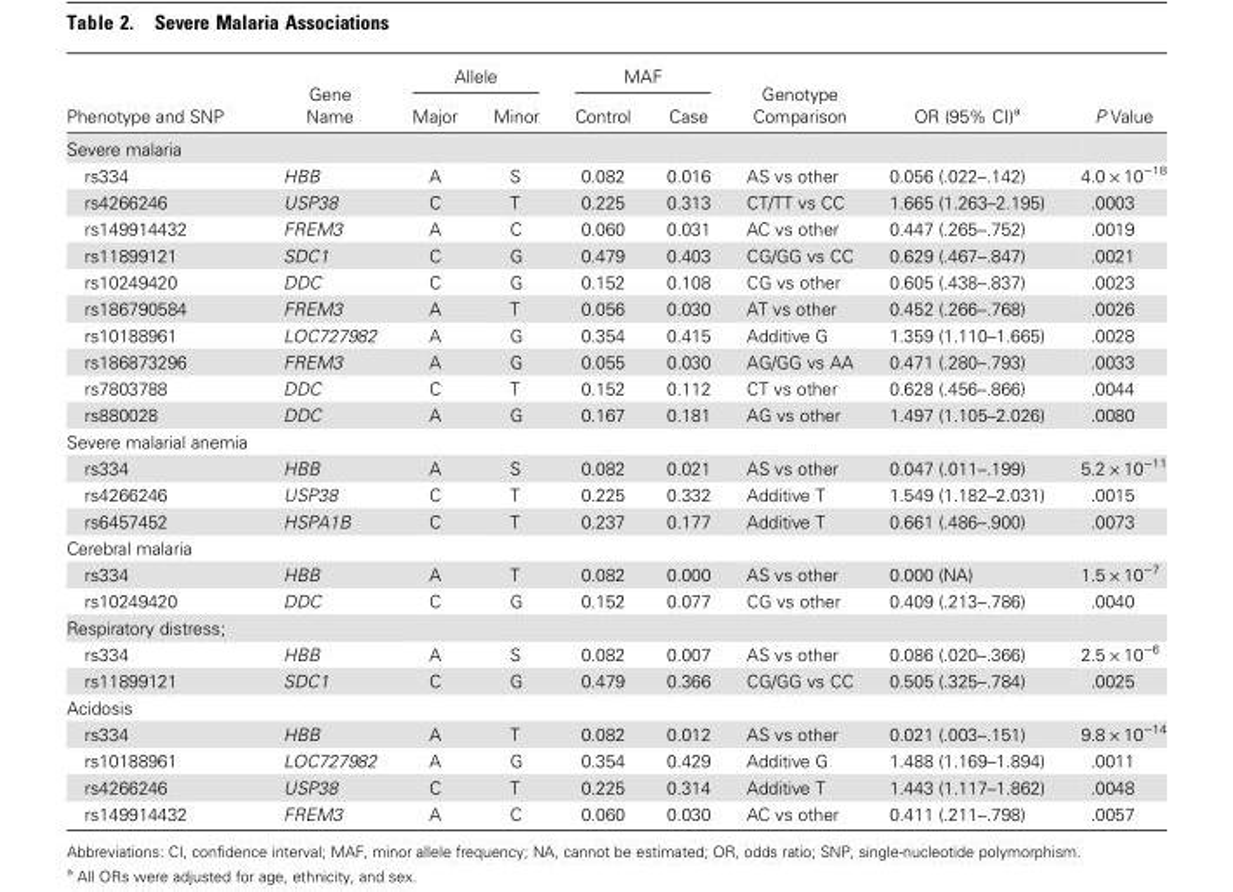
<table><thead><tr><td rowspan="2">Phenotype and SNP</td><td rowspan="2">Gene Name</td><td colspan="2">Allele</td><td colspan="2">MAF</td><td rowspan="2">Genotype Comparison</td><td rowspan="2">OR (95% CI)<sup>a</sup></td><td rowspan="2">P Value</td></tr><tr><td>Major</td><td>Minor</td><td>Control</td><td>Case</td></tr></thead><tbody><tr><td colspan="9">Severe malaria</td></tr><tr><td>rs334</td><td>HBB</td><td>A</td><td>S</td><td>0.082</td><td>0.016</td><td>AS vs other</td><td>0.056 (.022–.142)</td><td>4.0 × 10<sup>−18</sup></td></tr><tr><td>rs4266246</td><td>USP38</td><td>C</td><td>T</td><td>0.225</td><td>0.313</td><td>CT/TT vs CC</td><td>1.665 (1.263–2.195)</td><td>.0003</td></tr><tr><td>rs149914432</td><td>FREM3</td><td>A</td><td>C</td><td>0.060</td><td>0.031</td><td>AC vs other</td><td>0.447 (.265–.752)</td><td>.0019</td></tr><tr><td>rs11899121</td><td>SDC1</td><td>C</td><td>G</td><td>0.479</td><td>0.403</td><td>CG/GG vs CC</td><td>0.629 (.467–.847)</td><td>.0021</td></tr><tr><td>rs10249420</td><td>DDC</td><td>C</td><td>G</td><td>0.152</td><td>0.108</td><td>CG vs other</td><td>0.605 (.438–.837)</td><td>.0023</td></tr><tr><td>rs186790584</td><td>FREM3</td><td>A</td><td>T</td><td>0.056</td><td>0.030</td><td>AT vs other</td><td>0.452 (.266–.768)</td><td>.0026</td></tr><tr><td>rs10188961</td><td>LOC727982</td><td>A</td><td>G</td><td>0.354</td><td>0.415</td><td>Additive G</td><td>1.359 (1.110–1.665)</td><td>.0028</td></tr><tr><td>rs186873296</td><td>FREM3</td><td>A</td><td>G</td><td>0.055</td><td>0.030</td><td>AG/GG vs AA</td><td>0.471 (.280–.793)</td><td>.0033</td></tr><tr><td>rs7803788</td><td>DDC</td><td>C</td><td>T</td><td>0.152</td><td>0.112</td><td>CT vs other</td><td>0.628 (.456–.866)</td><td>.0044</td></tr><tr><td>rs880028</td><td>DDC</td><td>A</td><td>G</td><td>0.167</td><td>0.181</td><td>AG vs other</td><td>1.497 (1.105–2.026)</td><td>.0080</td></tr><tr><td colspan="9">Severe malarial anemia</td></tr><tr><td>rs334</td><td>HBB</td><td>A</td><td>S</td><td>0.082</td><td>0.021</td><td>AS vs other</td><td>0.047 (.011–.199)</td><td>5.2 × 10<sup>−11</sup></td></tr><tr><td>rs4266246</td><td>USP38</td><td>C</td><td>T</td><td>0.225</td><td>0.332</td><td>Additive T</td><td>1.549 (1.182–2.031)</td><td>.0015</td></tr><tr><td>rs6457452</td><td>HSPA1B</td><td>C</td><td>T</td><td>0.237</td><td>0.177</td><td>Additive T</td><td>0.661 (.486–.900)</td><td>.0073</td></tr><tr><td colspan="9">Cerebral malaria</td></tr><tr><td>rs334</td><td>HBB</td><td>A</td><td>T</td><td>0.082</td><td>0.000</td><td>AS vs other</td><td>0.000 (NA)</td><td>1.5 × 10<sup>−7</sup></td></tr><tr><td>rs10249420</td><td>DDC</td><td>C</td><td>G</td><td>0.152</td><td>0.077</td><td>CG vs other</td><td>0.409 (.213–.786)</td><td>.0040</td></tr><tr><td colspan="9">Respiratory distress;</td></tr><tr><td>rs334</td><td>HBB</td><td>A</td><td>S</td><td>0.082</td><td>0.007</td><td>AS vs other</td><td>0.086 (.020–.366)</td><td>2.5 × 10<sup>−6</sup></td></tr><tr><td>rs11899121</td><td>SDC1</td><td>C</td><td>G</td><td>0.479</td><td>0.366</td><td>CG/GG vs CC</td><td>0.505 (.325–.784)</td><td>.0025</td></tr><tr><td colspan="9">Acidosis</td></tr><tr><td>rs334</td><td>HBB</td><td>A</td><td>T</td><td>0.082</td><td>0.012</td><td>AS vs other</td><td>0.021 (.003–.151)</td><td>9.8 × 10<sup>−14</sup></td></tr><tr><td>rs10188961</td><td>LOC727982</td><td>A</td><td>G</td><td>0.354</td><td>0.429</td><td>Additive G</td><td>1.488 (1.169–1.894)</td><td>.0011</td></tr><tr><td>rs4266246</td><td>USP38</td><td>C</td><td>T</td><td>0.225</td><td>0.314</td><td>Additive T</td><td>1.443 (1.117–1.862)</td><td>.0048</td></tr><tr><td>rs149914432</td><td>FREM3</td><td>A</td><td>C</td><td>0.060</td><td>0.030</td><td>AC vs other</td><td>0.411 (.211–.798)</td><td>.0057</td></tr></tbody></table>